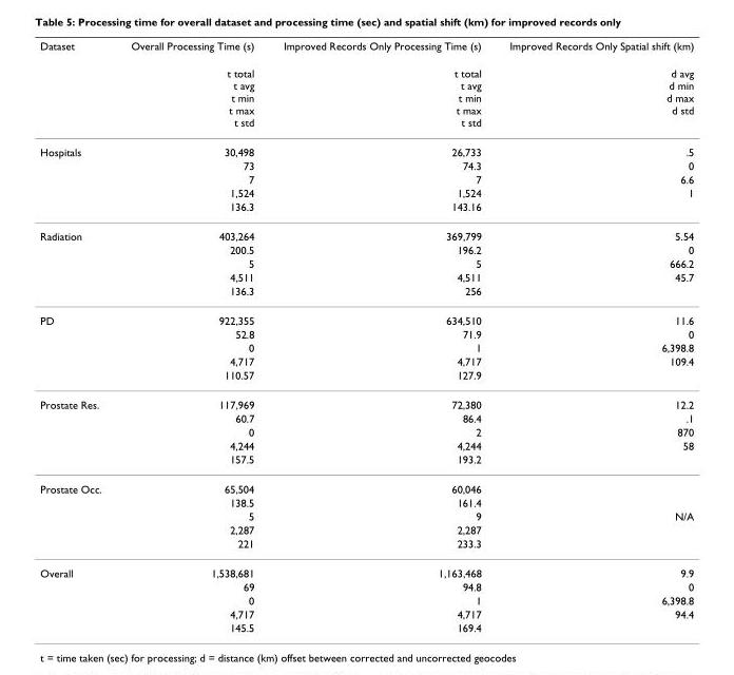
<table><thead><tr><td rowspan="2">Dataset</td><td rowspan="2">Overall Processing Time (s) t total t avg t min t max t std</td><td rowspan="2">Improved Records Only Processing Time (s) t total t avg t min t max t std</td><td rowspan="2">Improved Records Only Spatial shift (km) d avg d min d max d std</td></tr><tr></tr></thead><tbody><tr><td rowspan="5">Hospitals</td><td>30,498</td><td>26,733</td><td>.5</td></tr><tr><td>73</td><td>74.3</td><td>0</td></tr><tr><td>7</td><td>7</td><td>6.6</td></tr><tr><td>1,524</td><td>1,524</td><td>1</td></tr><tr><td>136.3</td><td>143.16</td><td></td></tr><tr><td rowspan="5">Radiation</td><td>403,264</td><td>369,799</td><td>5.54</td></tr><tr><td>200.5</td><td>196.2</td><td>0</td></tr><tr><td>5</td><td>5</td><td>666.2</td></tr><tr><td>4,511</td><td>4,511</td><td>45.7</td></tr><tr><td>136.3</td><td>256</td><td></td></tr><tr><td rowspan="5">PD</td><td>922,355</td><td>634,510</td><td>11.6</td></tr><tr><td>52.8</td><td>71.9</td><td>0</td></tr><tr><td>0</td><td>1</td><td>6,398.8</td></tr><tr><td>4,717</td><td>4,717</td><td>109.4</td></tr><tr><td>110.57</td><td>127.9</td><td></td></tr><tr><td rowspan="5">Prostate Res.</td><td>117,969</td><td>72,380</td><td>12.2</td></tr><tr><td>60.7</td><td>86.4</td><td>.1</td></tr><tr><td>0</td><td>2</td><td>870</td></tr><tr><td>4,244</td><td>4,244</td><td>58</td></tr><tr><td>157.5</td><td>193.2</td><td></td></tr><tr><td rowspan="5">Prostate Occ.</td><td>65,504</td><td>60,046</td><td></td></tr><tr><td>138.5</td><td>161.4</td><td></td></tr><tr><td>5</td><td>9</td><td>N/A</td></tr><tr><td>2,287</td><td>2,287</td><td></td></tr><tr><td>221</td><td>233.3</td><td></td></tr><tr><td rowspan="5">Overall</td><td>1,538,681</td><td>1,163,468</td><td>9.9</td></tr><tr><td>69</td><td>94.8</td><td>0</td></tr><tr><td>0</td><td>1</td><td>6,398.8</td></tr><tr><td>4,717</td><td>4,717</td><td>94.4</td></tr><tr><td>145.5</td><td>169.4</td><td></td></tr></tbody></table>